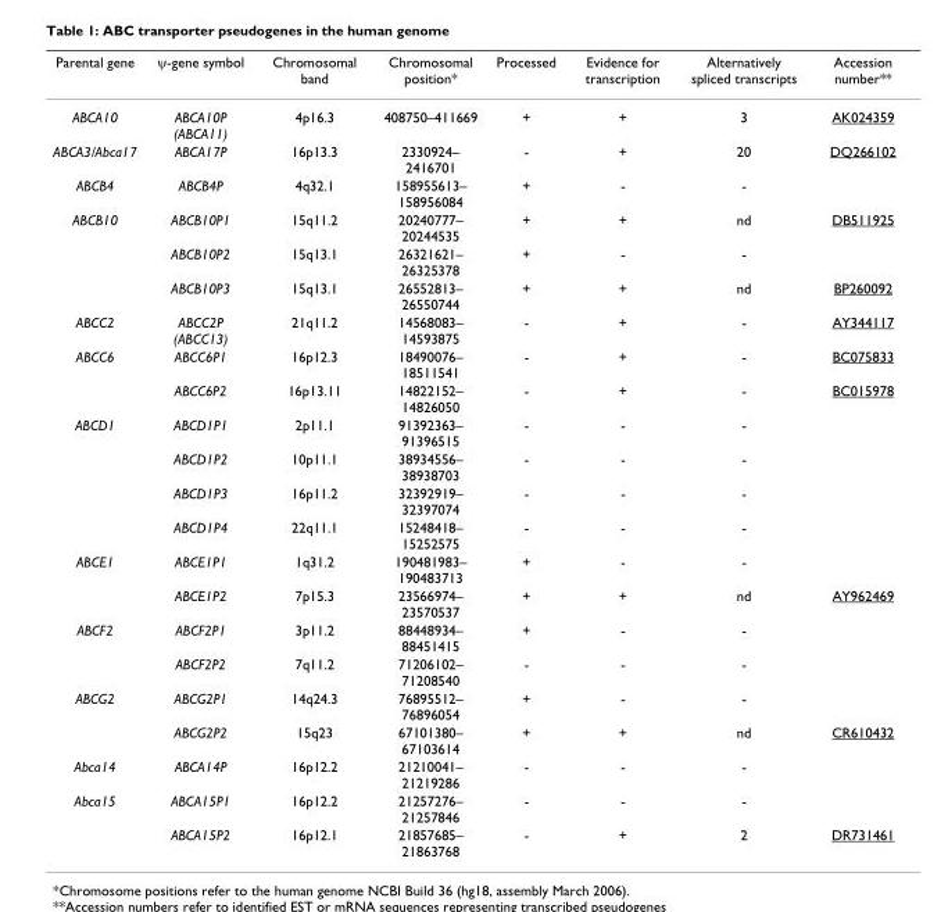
<table><thead><tr><td>Parental gene</td><td>ψ-gene symbol</td><td>Chromosomal band</td><td>Chromosomal position*</td><td>Processed</td><td>Evidence for transcription</td><td>Alternatively spliced transcripts</td><td>Accession number**</td></tr></thead><tbody><tr><td>ABCA10</td><td>ABCA10P (ABCA11)</td><td>4p16.3</td><td>408750–411669</td><td>+</td><td>+</td><td>3</td><td>AK024359</td></tr><tr><td>ABCA3/Abca17</td><td>ABCA17P</td><td>16p13.3</td><td>2330924– 2416701</td><td>-</td><td>+</td><td>20</td><td>DQ266102</td></tr><tr><td>ABCB4</td><td>ABCB4P</td><td>4q32.1</td><td>158955613– 158956084</td><td>+</td><td>-</td><td>-</td><td></td></tr><tr><td rowspan="3">ABCB10</td><td>ABCB10P1</td><td>15q11.2</td><td>20240777– 20244535</td><td>+</td><td>+</td><td>nd</td><td>DB511925</td></tr><tr><td>ABCB10P2</td><td>15q13.1</td><td>26321621– 26325378</td><td>+</td><td>-</td><td>-</td><td></td></tr><tr><td>ABCB10P3</td><td>15q13.1</td><td>26552813– 26550744</td><td>+</td><td>+</td><td>nd</td><td>BP260092</td></tr><tr><td>ABCC2</td><td>ABCC2P (ABCC13)</td><td>21q11.2</td><td>14568083– 14593875</td><td>-</td><td>+</td><td>-</td><td>AY344117</td></tr><tr><td rowspan="2">ABCC6</td><td>ABCC6P1</td><td>16p12.3</td><td>18490076– 18511541</td><td>-</td><td>+</td><td>-</td><td>BC075833</td></tr><tr><td>ABCC6P2</td><td>16p13.11</td><td>14822152– 14826050</td><td>-</td><td>+</td><td>-</td><td>BC015978</td></tr><tr><td rowspan="4">ABCD1</td><td>ABCD1P1</td><td>2p11.1</td><td>91392363– 91396515</td><td>-</td><td>-</td><td>-</td><td></td></tr><tr><td>ABCD1P2</td><td>10p11.1</td><td>38934556– 38938703</td><td>-</td><td>-</td><td>-</td><td></td></tr><tr><td>ABCD1P3</td><td>16p11.2</td><td>32392919– 32397074</td><td>-</td><td>-</td><td>-</td><td></td></tr><tr><td>ABCD1P4</td><td>22q11.1</td><td>15248418– 15252575</td><td>-</td><td>-</td><td>-</td><td></td></tr><tr><td rowspan="2">ABCE1</td><td>ABCE1P1</td><td>1q31.2</td><td>190481983– 190483713</td><td>+</td><td>-</td><td>-</td><td></td></tr><tr><td>ABCE1P2</td><td>7p15.3</td><td>23566974– 23570537</td><td>+</td><td>+</td><td>nd</td><td>AY962469</td></tr><tr><td rowspan="2">ABCF2</td><td>ABCF2P1</td><td>3p11.2</td><td>88448934– 88451415</td><td>+</td><td>-</td><td>-</td><td></td></tr><tr><td>ABCF2P2</td><td>7q11.2</td><td>71206102– 71208540</td><td>-</td><td>-</td><td>-</td><td></td></tr><tr><td rowspan="2">ABCG2</td><td>ABCG2P1</td><td>14q24.3</td><td>76895512– 76896054</td><td>+</td><td>-</td><td>-</td><td></td></tr><tr><td>ABCG2P2</td><td>15q23</td><td>67101380– 67103614</td><td>+</td><td>+</td><td>nd</td><td>CR610432</td></tr><tr><td>Abca14</td><td>ABCA14P</td><td>16p12.2</td><td>21210041– 21219286</td><td>-</td><td>-</td><td>-</td><td></td></tr><tr><td rowspan="2">Abca15</td><td>ABCA15P1</td><td>16p12.2</td><td>21257276– 21257846</td><td>-</td><td>-</td><td>-</td><td></td></tr><tr><td>ABCA15P2</td><td>16p12.1</td><td>21857685– 21863768</td><td>-</td><td>+</td><td>2</td><td>DR731461</td></tr></tbody></table>